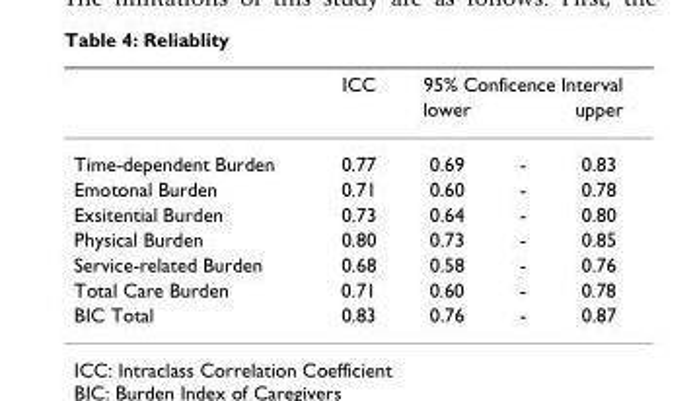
<table><thead><tr><td rowspan="2"></td><td rowspan="2">ICC</td><td colspan="3">95% Conficence Interval</td></tr><tr><td>lower</td><td></td><td>upper</td></tr></thead><tbody><tr><td>Time-dependent Burden</td><td>0.77</td><td>0.69</td><td>-</td><td>0.83</td></tr><tr><td>Emotonal Burden</td><td>0.71</td><td>0.60</td><td>-</td><td>0.78</td></tr><tr><td>Exsitential Burden</td><td>0.73</td><td>0.64</td><td>-</td><td>0.80</td></tr><tr><td>Physical Burden</td><td>0.80</td><td>0.73</td><td>-</td><td>0.85</td></tr><tr><td>Service-related Burden</td><td>0.68</td><td>0.58</td><td>-</td><td>0.76</td></tr><tr><td>Total Care Burden</td><td>0.71</td><td>0.60</td><td>-</td><td>0.78</td></tr><tr><td>BIC Total</td><td>0.83</td><td>0.76</td><td>-</td><td>0.87</td></tr></tbody></table>